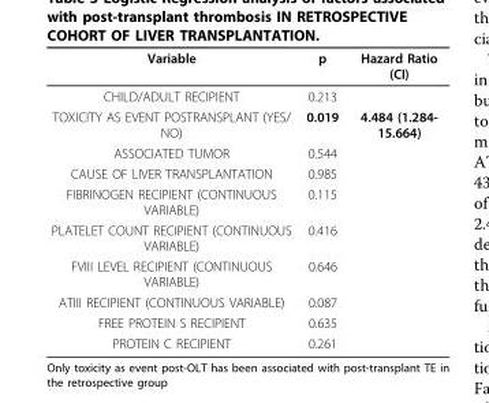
<table><thead><tr><td>Variable</td><td>p</td><td>Hazard Ratio (CI)</td></tr></thead><tbody><tr><td>CHILD/ADULT RECIPIENT</td><td>0.213</td><td></td></tr><tr><td>TOXICITY AS EVENT POSTRANSPLANT (YES/ NO)</td><td>0.019</td><td>4.484 (1.284- 15.664)</td></tr><tr><td>ASSOCIATED TUMOR</td><td>0.544</td><td></td></tr><tr><td>CAUSE OF LIVER TRANSPLANTATION</td><td>0.985</td><td></td></tr><tr><td>FIBRINOGEN RECIPIENT (CONTINUOUS VARIABLE)</td><td>0.115</td><td></td></tr><tr><td>PLATELET COUNT RECIPIENT (CONTINUOUS VARIABLE)</td><td>0.416</td><td></td></tr><tr><td>FVIII LEVEL RECIPIENT (CONTINUOUS VARIABLE)</td><td>0.646</td><td></td></tr><tr><td>ATIII RECIPIENT (CONTINUOUS VARIABLE)</td><td>0.087</td><td></td></tr><tr><td>FREE PROTEIN S RECIPIENT</td><td>0.635</td><td></td></tr><tr><td>PROTEIN C RECIPIENT</td><td>0.261</td><td></td></tr></tbody></table>